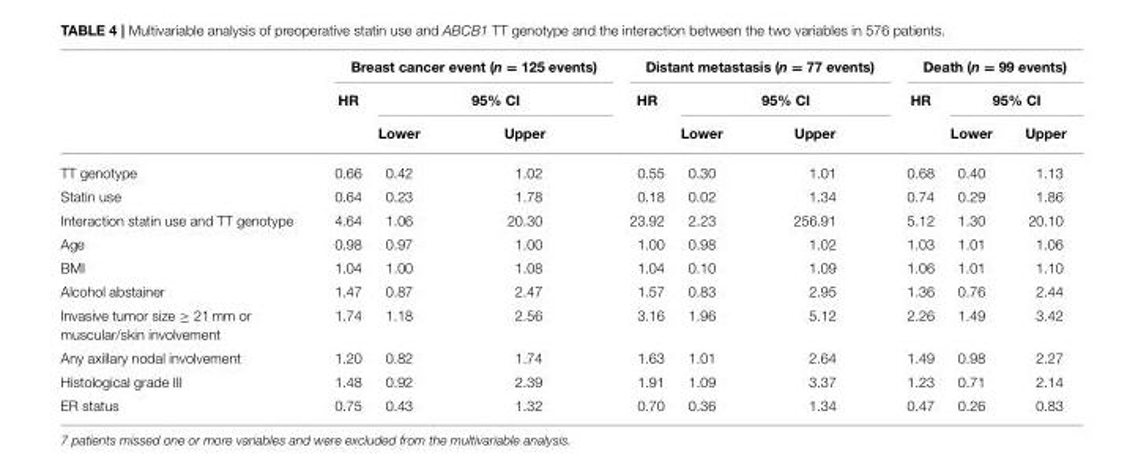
<table><thead><tr><td rowspan="3"></td><td colspan="3">Breast cancer event (n = 125 events)</td><td colspan="3">Distant metastasis (n = 77 events)</td><td colspan="3">Death (n = 99 events)</td></tr><tr><td rowspan="2">HR</td><td colspan="2">95% CI</td><td rowspan="2">HR</td><td colspan="2">95% CI</td><td rowspan="2">HR</td><td colspan="2">95% CI</td></tr><tr><td>Lower</td><td>Upper</td><td>Lower</td><td>Upper</td><td>Lower</td><td>Upper</td></tr></thead><tbody><tr><td>TT genotype</td><td>0.66</td><td>0.42</td><td>1.02</td><td>0.55</td><td>0.30</td><td>1.01</td><td>0.68</td><td>0.40</td><td>1.13</td></tr><tr><td>Statin use</td><td>0.64</td><td>0.23</td><td>1.78</td><td>0.18</td><td>0.02</td><td>1.34</td><td>0.74</td><td>0.29</td><td>1.86</td></tr><tr><td>Interaction statin use and TT genotype</td><td>4.64</td><td>1.06</td><td>20.30</td><td>23.92</td><td>2.23</td><td>256.91</td><td>5.12</td><td>1.30</td><td>20.10</td></tr><tr><td>Age</td><td>0.98</td><td>0.97</td><td>1.00</td><td>1.00</td><td>0.98</td><td>1.02</td><td>1.03</td><td>1.01</td><td>1.06</td></tr><tr><td>BMI</td><td>1.04</td><td>1.00</td><td>1.08</td><td>1.04</td><td>0.10</td><td>1.09</td><td>1.06</td><td>1.01</td><td>1.10</td></tr><tr><td>Alcohol abstainer</td><td>1.47</td><td>0.87</td><td>2.47</td><td>1.57</td><td>0.83</td><td>2.95</td><td>1.36</td><td>0.76</td><td>2.44</td></tr><tr><td>Invasive tumor size ≥ 21 mm or muscular/skin involvement</td><td>1.74</td><td>1.18</td><td>2.56</td><td>3.16</td><td>1.96</td><td>5.12</td><td>2.26</td><td>1.49</td><td>3.42</td></tr><tr><td>Any axillary nodal involvement</td><td>1.20</td><td>0.82</td><td>1.74</td><td>1.63</td><td>1.01</td><td>2.64</td><td>1.49</td><td>0.98</td><td>2.27</td></tr><tr><td>Histological grade III</td><td>1.48</td><td>0.92</td><td>2.39</td><td>1.91</td><td>1.09</td><td>3.37</td><td>1.23</td><td>0.71</td><td>2.14</td></tr><tr><td>ER status</td><td>0.75</td><td>0.43</td><td>1.32</td><td>0.70</td><td>0.36</td><td>1.34</td><td>0.47</td><td>0.26</td><td>0.83</td></tr></tbody></table>